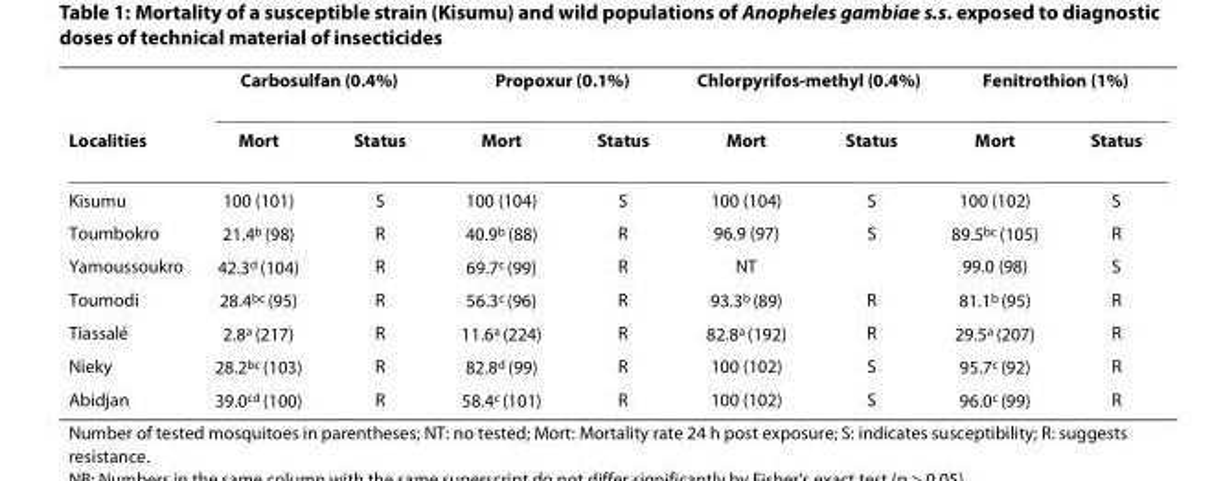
<table><thead><tr><td rowspan="2">Localities</td><td colspan="2">Carbosulfan (0.4%)</td><td colspan="2">Propoxur (0.1%)</td><td colspan="2">Chlorpyrifos-methyl (0.4%)</td><td colspan="2">Fenitrothion (1%)</td></tr><tr><td>Mort</td><td>Status</td><td>Mort</td><td>Status</td><td>Mort</td><td>Status</td><td>Mort</td><td>Status</td></tr></thead><tbody><tr><td>Kisumu</td><td>100 (101)</td><td>S</td><td>100 (104)</td><td>S</td><td>100 (104)</td><td>S</td><td>100 (102)</td><td>S</td></tr><tr><td>Toumbokro</td><td>21.4<sup>b</sup> (98)</td><td>R</td><td>40.9<sup>b</sup> (88)</td><td>R</td><td>96.9 (97)</td><td>S</td><td>89.5<sup>bc</sup> (105)</td><td>R</td></tr><tr><td>Yamoussoukro</td><td>42.3<sup>d</sup> (104)</td><td>R</td><td>69.7<sup>c</sup> (99)</td><td>R</td><td>NT</td><td></td><td>99.0 (98)</td><td>S</td></tr><tr><td>Toumodi</td><td>28.4<sup>bc</sup> (95)</td><td>R</td><td>56.3<sup>c</sup> (96)</td><td>R</td><td>93.3<sup>b</sup> (89)</td><td>R</td><td>81.1<sup>b</sup> (95)</td><td>R</td></tr><tr><td>Tiassalé</td><td>2.8<sup>a</sup> (217)</td><td>R</td><td>11.6<sup>a</sup> (224)</td><td>R</td><td>82.8<sup>a</sup> (192)</td><td>R</td><td>29.5<sup>a</sup> (207)</td><td>R</td></tr><tr><td>Nieky</td><td>28.2<sup>bc</sup> (103)</td><td>R</td><td>82.8<sup>d</sup> (99)</td><td>R</td><td>100 (102)</td><td>S</td><td>95.7<sup>c</sup> (92)</td><td>R</td></tr><tr><td>Abidjan</td><td>39.0<sup>cd</sup> (100)</td><td>R</td><td>58.4<sup>c</sup> (101)</td><td>R</td><td>100 (102)</td><td>S</td><td>96.0<sup>c</sup> (99)</td><td>R</td></tr></tbody></table>